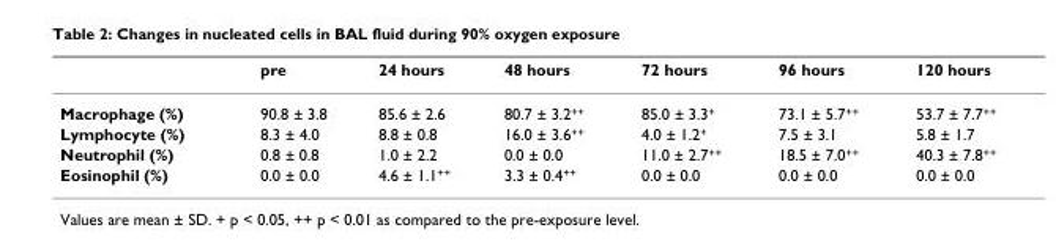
<table><thead><tr><td></td><td>pre</td><td>24 hours</td><td>48 hours</td><td>72 hours</td><td>96 hours</td><td>120 hours</td></tr></thead><tbody><tr><td>Macrophage (%)</td><td>90.8 ± 3.8</td><td>85.6 ± 2.6</td><td>80.7 ± 3.2<sup>++</sup></td><td>85.0 ± 3.3<sup>+</sup></td><td>73.1 ± 5.7<sup>++</sup></td><td>53.7 ± 7.7<sup>++</sup></td></tr><tr><td>Lymphocyte (%)</td><td>8.3 ± 4.0</td><td>8.8 ± 0.8</td><td>16.0 ± 3.6<sup>++</sup></td><td>4.0 ± 1.2<sup>+</sup></td><td>7.5 ± 3.1</td><td>5.8 ± 1.7</td></tr><tr><td>Neutrophil (%)</td><td>0.8 ± 0.8</td><td>1.0 ± 2.2</td><td>0.0 ± 0.0</td><td>11.0 ± 2.7<sup>++</sup></td><td>18.5 ± 7.0<sup>++</sup></td><td>40.3 ± 7.8<sup>++</sup></td></tr><tr><td>Eosinophil (%)</td><td>0.0 ± 0.0</td><td>4.6 ± 1.1<sup>++</sup></td><td>3.3 ± 0.4<sup>++</sup></td><td>0.0 ± 0.0</td><td>0.0 ± 0.0</td><td>0.0 ± 0.0</td></tr></tbody></table>